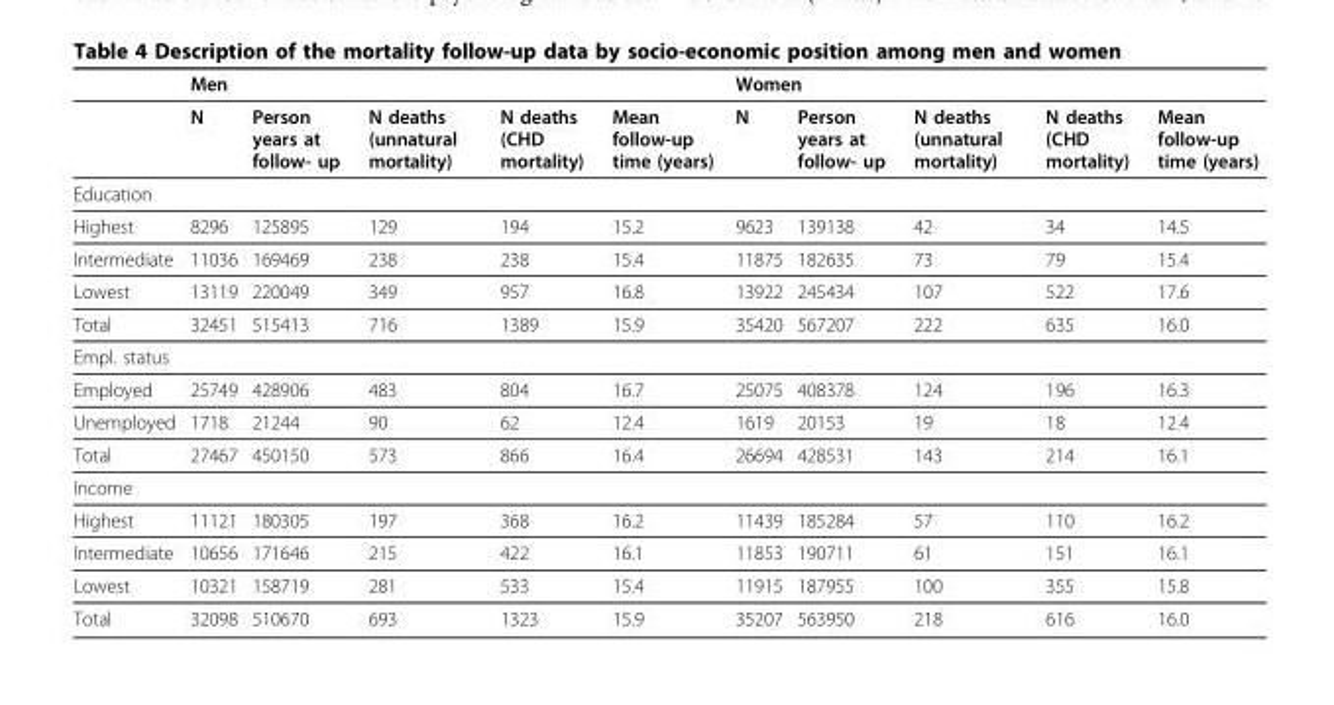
<table><thead><tr><td rowspan="2"></td><td colspan="5">Men</td><td colspan="5">Women</td></tr><tr><td>N</td><td>Person years at follow- up</td><td>N deaths (unnatural mortality)</td><td>N deaths (CHD mortality)</td><td>Mean follow-up time (years)</td><td>N</td><td>Person years at follow- up</td><td>N deaths (unnatural mortality)</td><td>N deaths (CHD mortality)</td><td>Mean follow-up time (years)</td></tr></thead><tbody><tr><td colspan="11">Education</td></tr><tr><td>Highest</td><td>8296</td><td>125895</td><td>129</td><td>194</td><td>15.2</td><td>9623</td><td>139138</td><td>42</td><td>34</td><td>14.5</td></tr><tr><td>Intermediate</td><td>11036</td><td>169469</td><td>238</td><td>238</td><td>15.4</td><td>11875</td><td>182635</td><td>73</td><td>79</td><td>15.4</td></tr><tr><td>Lowest</td><td>13119</td><td>220049</td><td>349</td><td>957</td><td>16.8</td><td>13922</td><td>245434</td><td>107</td><td>522</td><td>17.6</td></tr><tr><td>Total</td><td>32451</td><td>515413</td><td>716</td><td>1389</td><td>15.9</td><td>35420</td><td>567207</td><td>222</td><td>635</td><td>16.0</td></tr><tr><td colspan="11">Empl. status</td></tr><tr><td>Employed</td><td>25749</td><td>428906</td><td>483</td><td>804</td><td>16.7</td><td>25075</td><td>408378</td><td>124</td><td>196</td><td>16.3</td></tr><tr><td>Unemployed</td><td>1718</td><td>21244</td><td>90</td><td>62</td><td>12.4</td><td>1619</td><td>20153</td><td>19</td><td>18</td><td>12.4</td></tr><tr><td>Total</td><td>27467</td><td>450150</td><td>573</td><td>866</td><td>16.4</td><td>26694</td><td>428531</td><td>143</td><td>214</td><td>16.1</td></tr><tr><td colspan="11">Income</td></tr><tr><td>Highest</td><td>11121</td><td>180305</td><td>197</td><td>368</td><td>16.2</td><td>11439</td><td>185284</td><td>57</td><td>110</td><td>16.2</td></tr><tr><td>Intermediate</td><td>10656</td><td>171646</td><td>215</td><td>422</td><td>16.1</td><td>11853</td><td>190711</td><td>61</td><td>151</td><td>16.1</td></tr><tr><td>Lowest</td><td>10321</td><td>158719</td><td>281</td><td>533</td><td>15.4</td><td>11915</td><td>187955</td><td>100</td><td>355</td><td>15.8</td></tr><tr><td>Total</td><td>32098</td><td>510670</td><td>693</td><td>1323</td><td>15.9</td><td>35207</td><td>563950</td><td>218</td><td>616</td><td>16.0</td></tr></tbody></table>